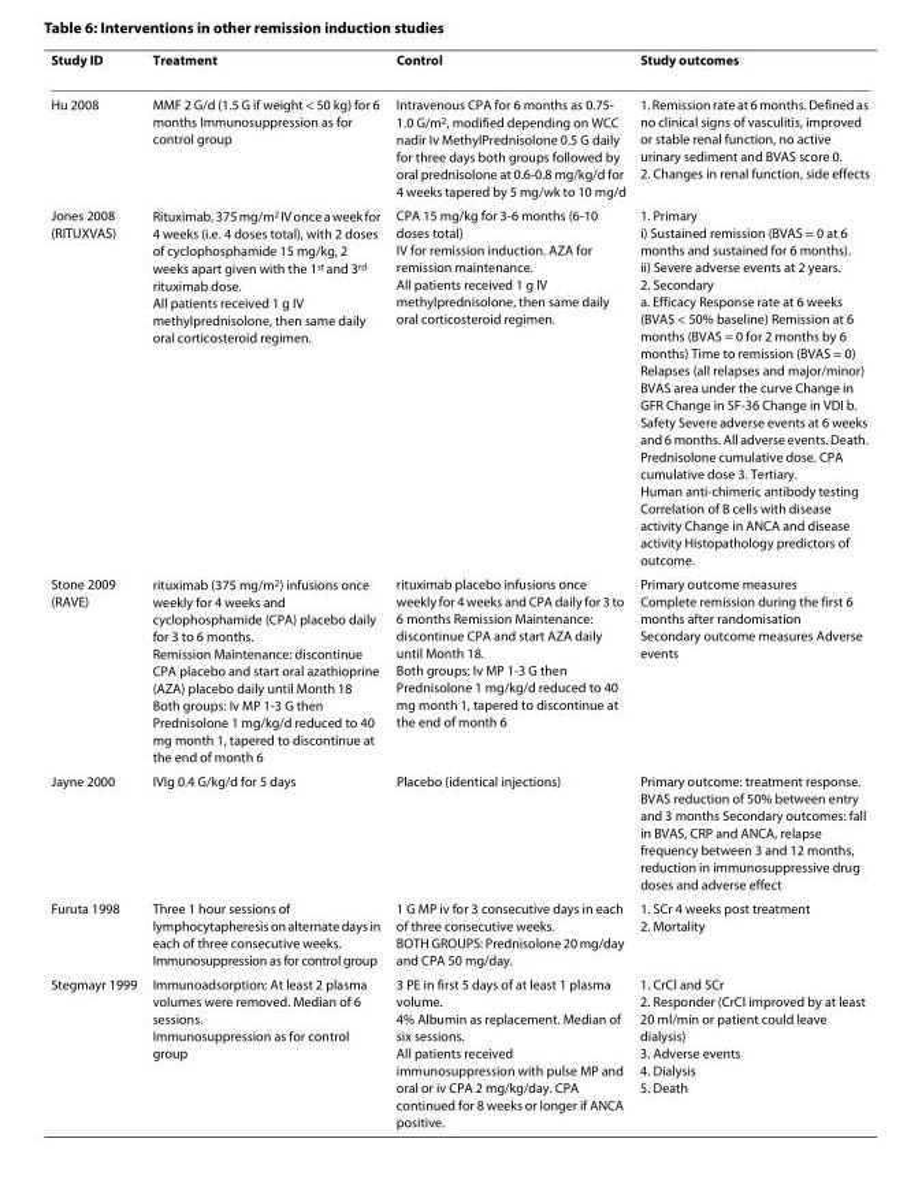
<table><thead><tr><td>Study ID</td><td>Treatment</td><td>Control</td><td>Study outcomes</td></tr></thead><tbody><tr><td>Hu 2008</td><td>MMF 2 G/d (1.5 G if weight &lt; 50 kg) for 6 months Immunosuppression as for control group</td><td>Intravenous CPA for 6 months as 0.75- 1.0 G/m<sup>2</sup>, modified depending on WCC nadir Iv MethylPrednisolone 0.5 G daily for three days both groups followed by oral prednisolone at 0.6-0.8 mg/kg/d for 4 weeks tapered by 5 mg/wk to 10 mg/d</td><td>1. Remission rate at 6 months. Defined as no clinical signs of vasculitis, improved or stable renal function, no active urinary sediment and BVAS score 0. 2. Changes in renal function, side effects</td></tr><tr><td>Jones 2008 (RITUXVAS)</td><td>Rituximab, 375 mg/m<sup>2</sup> IV once a week for 4 weeks (i.e. 4 doses total), with 2 doses of cyclophosphamide 15 mg/kg, 2 weeks apart given with the 1<sup>st</sup> and 3<sup>rd</sup> rituximab dose. All patients received 1 g IV methylprednisolone, then same daily oral corticosteroid regimen.</td><td>CPA 15 mg/kg for 3-6 months (6-10 doses total) IV for remission induction. AZA for remission maintenance. All patients received 1 g IV methylprednisolone, then same daily oral corticosteroid regimen.</td><td>1. Primary i) Sustained remission (BVAS = 0 at 6 months and sustained for 6 months). ii) Severe adverse events at 2 years. 2. Secondary a. Efficacy Response rate at 6 weeks (BVAS &lt; 50% baseline) Remission at 6 months (BVAS = 0 for 2 months by 6 months) Time to remission (BVAS = 0) Relapses (all relapses and major/minor) BVAS area under the curve Change in GFR Change in SF-36 Change in VDI b. Safety Severe adverse events at 6 weeks and 6 months. All adverse events. Death. Prednisolone cumulative dose. CPA cumulative dose 3. Tertiary. Human anti-chimeric antibody testing Correlation of B cells with disease activity Change in ANCA and disease activity Histopathology predictors of outcome.</td></tr><tr><td>Stone 2009 (RAVE)</td><td>rituximab (375 mg/m<sup>2</sup>) infusions once weekly for 4 weeks and cyclophosphamide (CPA) placebo daily for 3 to 6 months. Remission Maintenance: discontinue CPA placebo and start oral azathioprine (AZA) placebo daily until Month 18 Both groups: Iv MP 1-3 G then Prednisolone 1 mg/kg/d reduced to 40 mg month 1, tapered to discontinue at the end of month 6</td><td>rituximab placebo infusions once weekly for 4 weeks and CPA daily for 3 to 6 months Remission Maintenance: discontinue CPA and start AZA daily until Month 18. Both groups: Iv MP 1-3 G then Prednisolone 1 mg/kg/d reduced to 40 mg month 1, tapered to discontinue at the end of month 6</td><td>Primary outcome measures Complete remission during the first 6 months after randomisation Secondary outcome measures Adverse events</td></tr><tr><td>Jayne 2000</td><td>IVIg 0.4 G/kg/d for 5 days</td><td>Placebo (identical injections)</td><td>Primary outcome: treatment response. BVAS reduction of 50% between entry and 3 months Secondary outcomes: fall in BVAS, CRP and ANCA, relapse frequency between 3 and 12 months, reduction in immunosuppressive drug doses and adverse effect</td></tr><tr><td>Furuta 1998</td><td>Three 1 hour sessions of lymphocytapheresis on alternate days in each of three consecutive weeks. Immunosuppression as for control group</td><td>1 G MP iv for 3 consecutive days in each of three consecutive weeks. BOTH GROUPS: Prednisolone 20 mg/day and CPA 50 mg/day.</td><td>1. SCr 4 weeks post treatment 2. Mortality</td></tr><tr><td>Stegmayr 1999</td><td>Immunoadsorption: At least 2 plasma volumes were removed. Median of 6 sessions. Immunosuppression as for control group</td><td>3 PE in first 5 days of at least 1 plasma volume. 4% Albumin as replacement. Median of six sessions. All patients received immunosuppression with pulse MP and oral or iv CPA 2 mg/kg/day. CPA continued for 8 weeks or longer if ANCA positive.</td><td>1. CrCl and SCr 2. Responder (CrCl improved by at least 20 ml/min or patient could leave dialysis) 3. Adverse events 4. Dialysis 5. Death</td></tr></tbody></table>